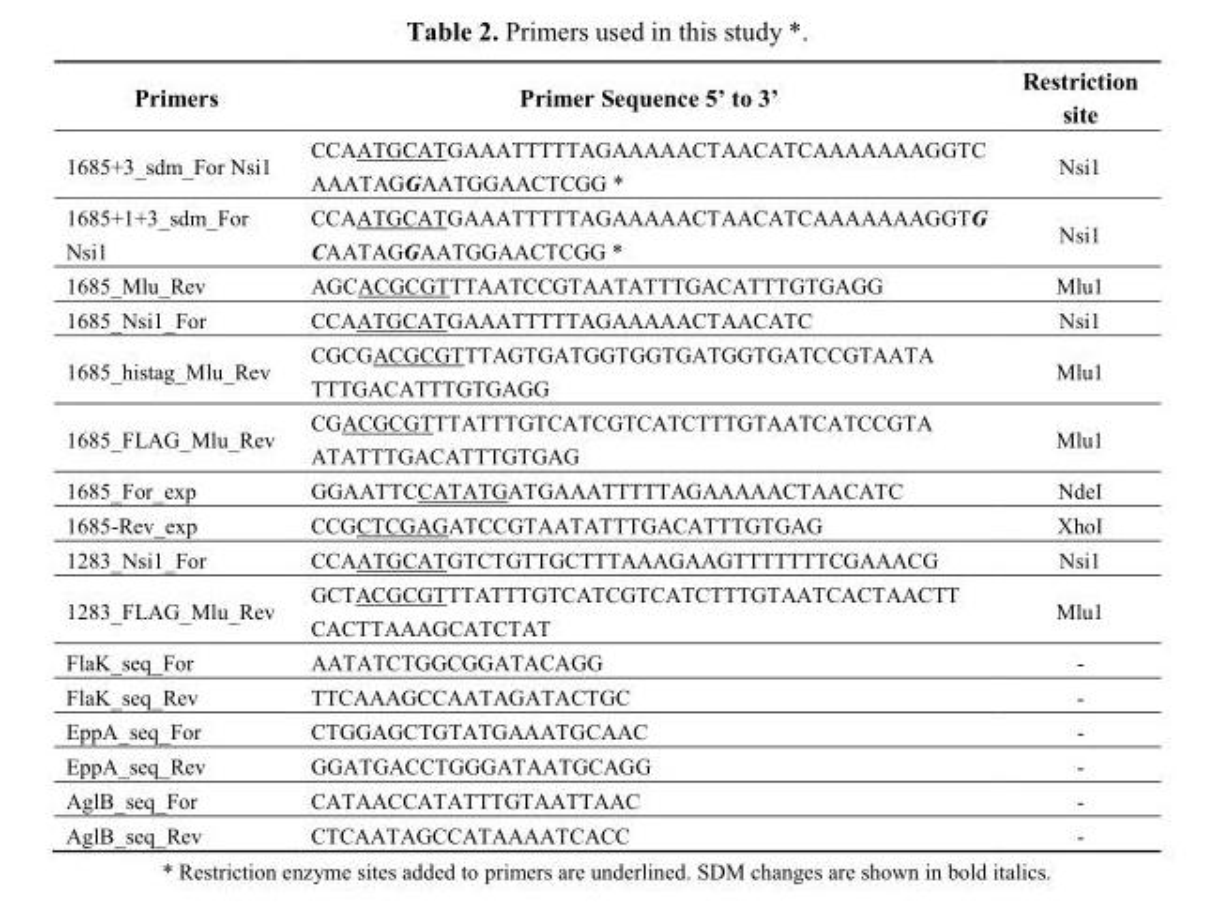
<table><thead><tr><td>Primers</td><td>Primer Sequence 5’ to 3’</td><td>Restriction site</td></tr></thead><tbody><tr><td>1685+3_sdm_For Nsi1</td><td>CCAATGCATGAAATTTTTAGAAAAACTAACATCAAAAAAAGGTC AAATAGGAATGGAACTCGG *</td><td>Nsi1</td></tr><tr><td>1685+1+3_sdm_For Nsi1</td><td>CCAATGCATGAAATTTTTAGAAAAACTAACATCAAAAAAAGGTG CAATAGGAATGGAACTCGG *</td><td>Nsi1</td></tr><tr><td>1685_Mlu_Rev</td><td>AGCACGCGTTTAATCCGTAATATTTGACATTTGTGAGG</td><td>Mlu1</td></tr><tr><td>1685_Nsi1_For</td><td>CCAATGCATGAAATTTTTAGAAAAACTAACATC</td><td>Nsi1</td></tr><tr><td>1685_histag_Mlu_Rev</td><td>CGCGACGCGTTTAGTGATGGTGGTGATGGTGATCCGTAATA TTTGACATTTGTGAGG</td><td>Mlu1</td></tr><tr><td>1685_FLAG_Mlu_Rev</td><td>CGACGCGTTTATTTGTCATCGTCATCTTTGTAATCATCCGTA ATATTTGACATTTGTGAG</td><td>Mlu1</td></tr><tr><td>1685_For_exp</td><td>GGAATTCCATATGATGAAATTTTTAGAAAAACTAACATC</td><td>NdeI</td></tr><tr><td>1685-Rev_exp</td><td>CCGCTCGAGATCCGTAATATTTGACATTTGTGAG</td><td>XhoI</td></tr><tr><td>1283_Nsi1_For</td><td>CCAATGCATGTCTGTTGCTTTAAAGAAGTTTTTTTCGAAACG</td><td>Nsi1</td></tr><tr><td>1283_FLAG_Mlu_Rev</td><td>GCTACGCGTTTATTTGTCATCGTCATCTTTGTAATCACTAACTT CACTTAAAGCATCTAT</td><td>Mlu1</td></tr><tr><td>FlaK_seq_For</td><td>AATATCTGGCGGATACAGG</td><td>-</td></tr><tr><td>FlaK_seq_Rev</td><td>TTCAAAGCCAATAGATACTGC</td><td>-</td></tr><tr><td>EppA_seq_For</td><td>CTGGAGCTGTATGAAATGCAAC</td><td>-</td></tr><tr><td>EppA_seq_Rev</td><td>GGATGACCTGGGATAATGCAGG</td><td>-</td></tr><tr><td>AglB_seq_For</td><td>CATAACCATATTTGTAATTAAC</td><td>-</td></tr><tr><td>AglB_seq_Rev</td><td>CTCAATAGCCATAAAATCACC</td><td>-</td></tr></tbody></table>